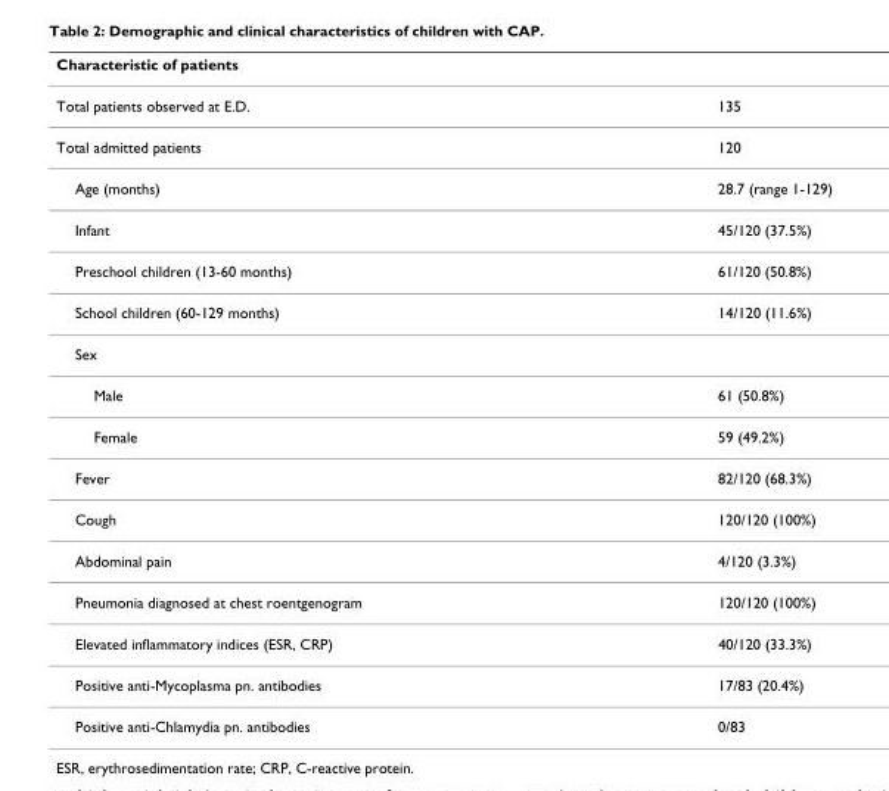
<table><thead><tr><td>Characteristic of patients</td><td></td></tr></thead><tbody><tr><td>Total patients observed at E.D.</td><td>135</td></tr><tr><td>Total admitted patients</td><td>120</td></tr><tr><td>Age (months)</td><td>28.7 (range 1-129)</td></tr><tr><td>Infant</td><td>45/120 (37.5%)</td></tr><tr><td>Preschool children (13-60 months)</td><td>61/120 (50.8%)</td></tr><tr><td>School children (60-129 months)</td><td>14/120 (11.6%)</td></tr><tr><td colspan="2">Sex</td></tr><tr><td>Male</td><td>61 (50.8%)</td></tr><tr><td>Female</td><td>59 (49.2%)</td></tr><tr><td>Fever</td><td>82/120 (68.3%)</td></tr><tr><td>Cough</td><td>120/120 (100%)</td></tr><tr><td>Abdominal pain</td><td>4/120 (3.3%)</td></tr><tr><td>Pneumonia diagnosed at chest roentgenogram</td><td>120/120 (100%)</td></tr><tr><td>Elevated inflammatory indices (ESR, CRP)</td><td>40/120 (33.3%)</td></tr><tr><td>Positive anti-Mycoplasma pn. antibodies</td><td>17/83 (20.4%)</td></tr><tr><td>Positive anti-Chlamydia pn. antibodies</td><td>0/83</td></tr></tbody></table>